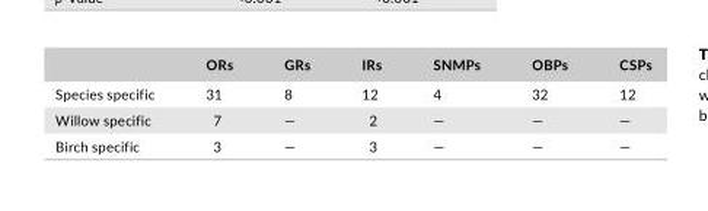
<table><thead><tr><td></td><td>ORs</td><td>GRs</td><td>IRs</td><td>SNMPs</td><td>OBPs</td><td>CSPs</td></tr></thead><tbody><tr><td>Species specific</td><td>31</td><td>8</td><td>12</td><td>4</td><td>32</td><td>12</td></tr><tr><td>Willow specific</td><td>7</td><td>—</td><td>2</td><td>—</td><td>—</td><td>—</td></tr><tr><td>Birch specific</td><td>3</td><td>—</td><td>3</td><td>—</td><td>—</td><td>—</td></tr></tbody></table>